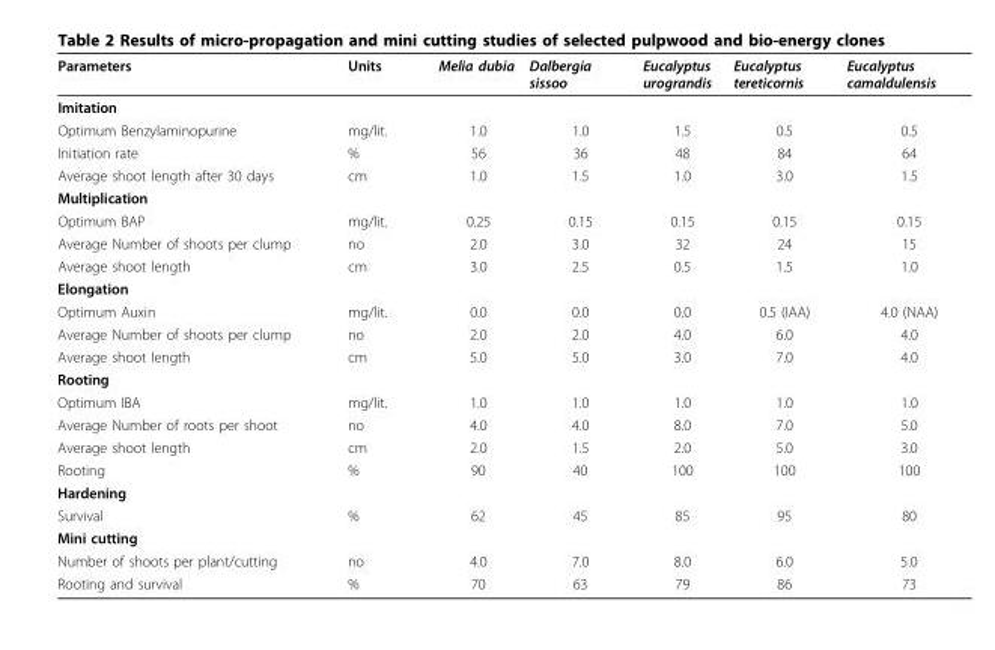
<table><thead><tr><td>Parameters</td><td>Units</td><td>Melia dubia</td><td>Dalbergia sissoo</td><td>Eucalyptus urograndis</td><td>Eucalyptus tereticornis</td><td>Eucalyptus camaldulensis</td></tr></thead><tbody><tr><td colspan="7">Imitation</td></tr><tr><td>Optimum Benzylaminopurine</td><td>mg/lit.</td><td>1.0</td><td>1.0</td><td>1.5</td><td>0.5</td><td>0.5</td></tr><tr><td>Initiation rate</td><td>%</td><td>56</td><td>36</td><td>48</td><td>84</td><td>64</td></tr><tr><td>Average shoot length after 30 days</td><td>cm</td><td>1.0</td><td>1.5</td><td>1.0</td><td>3.0</td><td>1.5</td></tr><tr><td colspan="7">Multiplication</td></tr><tr><td>Optimum BAP</td><td>mg/lit.</td><td>0.25</td><td>0.15</td><td>0.15</td><td>0.15</td><td>0.15</td></tr><tr><td>Average Number of shoots per clump</td><td>no</td><td>2.0</td><td>3.0</td><td>32</td><td>24</td><td>15</td></tr><tr><td>Average shoot length</td><td>cm</td><td>3.0</td><td>2.5</td><td>0.5</td><td>1.5</td><td>1.0</td></tr><tr><td colspan="7">Elongation</td></tr><tr><td>Optimum Auxin</td><td>mg/lit.</td><td>0.0</td><td>0.0</td><td>0.0</td><td>0.5 (IAA)</td><td>4.0 (NAA)</td></tr><tr><td>Average Number of shoots per clump</td><td>no</td><td>2.0</td><td>2.0</td><td>4.0</td><td>6.0</td><td>4.0</td></tr><tr><td>Average shoot length</td><td>cm</td><td>5.0</td><td>5.0</td><td>3.0</td><td>7.0</td><td>4.0</td></tr><tr><td colspan="7">Rooting</td></tr><tr><td>Optimum IBA</td><td>mg/lit.</td><td>1.0</td><td>1.0</td><td>1.0</td><td>1.0</td><td>1.0</td></tr><tr><td>Average Number of roots per shoot</td><td>no</td><td>4.0</td><td>4.0</td><td>8.0</td><td>7.0</td><td>5.0</td></tr><tr><td>Average shoot length</td><td>cm</td><td>2.0</td><td>1.5</td><td>2.0</td><td>5.0</td><td>3.0</td></tr><tr><td>Rooting</td><td>%</td><td>90</td><td>40</td><td>100</td><td>100</td><td>100</td></tr><tr><td colspan="7">Hardening</td></tr><tr><td>Survival</td><td>%</td><td>62</td><td>45</td><td>85</td><td>95</td><td>80</td></tr><tr><td colspan="7">Mini cutting</td></tr><tr><td>Number of shoots per plant/cutting</td><td>no</td><td>4.0</td><td>7.0</td><td>8.0</td><td>6.0</td><td>5.0</td></tr><tr><td>Rooting and survival</td><td>%</td><td>70</td><td>63</td><td>79</td><td>86</td><td>73</td></tr></tbody></table>